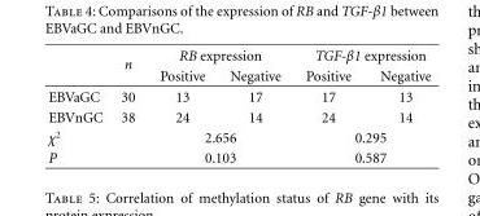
<table><thead><tr><td rowspan="2"></td><td rowspan="2">n</td><td colspan="2">RB expression</td><td colspan="2">TGF-β1 expression</td></tr><tr><td>Positive</td><td>Negative</td><td>Positive</td><td>Negative</td></tr></thead><tbody><tr><td>EBVaGC</td><td>30</td><td>13</td><td>17</td><td>17</td><td>13</td></tr><tr><td>EBVnGC</td><td>38</td><td>24</td><td>14</td><td>24</td><td>14</td></tr><tr><td>χ<sup>2</sup></td><td></td><td colspan="2">2.656</td><td colspan="2">0.295</td></tr><tr><td>P</td><td></td><td colspan="2">0.103</td><td colspan="2">0.587</td></tr></tbody></table>